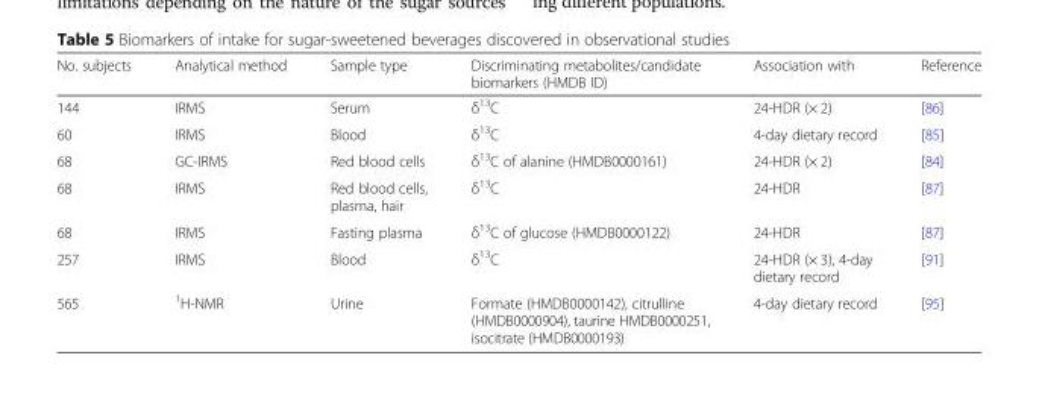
<table><thead><tr><td>No. subjects</td><td>Analytical method</td><td>Sample type</td><td>Discriminating metabolites/candidate biomarkers (HMDB ID)</td><td>Association with</td><td>Reference</td></tr></thead><tbody><tr><td>144</td><td>IRMS</td><td>Serum</td><td>δ<sup>13</sup>C</td><td>24-HDR (× 2)</td><td>[86]</td></tr><tr><td>60</td><td>IRMS</td><td>Blood</td><td>δ<sup>13</sup>C</td><td>4-day dietary record</td><td>[85]</td></tr><tr><td>68</td><td>GC-IRMS</td><td>Red blood cells</td><td>δ<sup>13</sup>C of alanine (HMDB0000161)</td><td>24-HDR (× 2)</td><td>[84]</td></tr><tr><td>68</td><td>IRMS</td><td>Red blood cells, plasma, hair</td><td>δ<sup>13</sup>C</td><td>24-HDR</td><td>[87]</td></tr><tr><td>68</td><td>IRMS</td><td>Fasting plasma</td><td>δ<sup>13</sup>C of glucose (HMDB0000122)</td><td>24-HDR</td><td>[87]</td></tr><tr><td>257</td><td>IRMS</td><td>Blood</td><td>δ<sup>13</sup>C</td><td>24-HDR (× 3), 4-day dietary record</td><td>[91]</td></tr><tr><td>565</td><td><sup>1</sup>H-NMR</td><td>Urine</td><td>Formate (HMDB0000142), citrulline (HMDB0000904), taurine HMDB0000251, isocitrate (HMDB0000193)</td><td>4-day dietary record</td><td>[95]</td></tr></tbody></table>